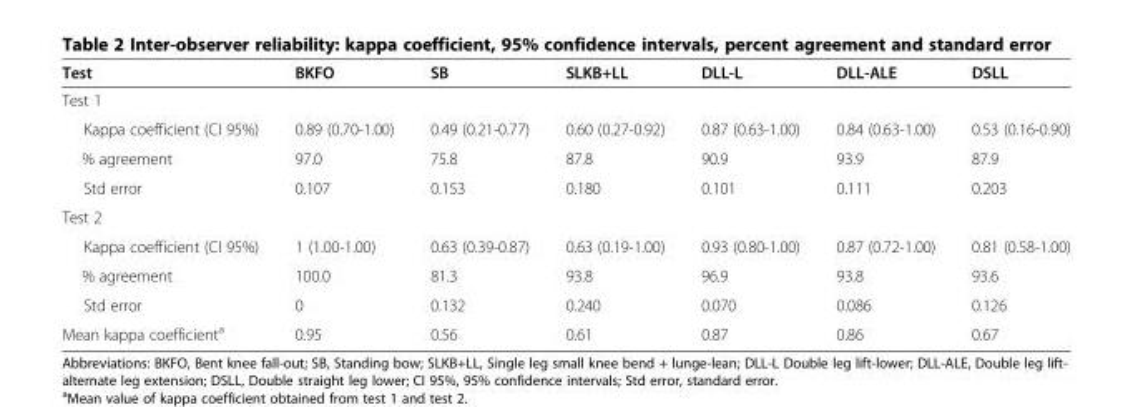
<table><thead><tr><td>Test</td><td>BKFO</td><td>SB</td><td>SLKB+LL</td><td>DLL-L</td><td>DLL-ALE</td><td>DSLL</td></tr></thead><tbody><tr><td colspan="7">Test 1</td></tr><tr><td>Kappa coefficient (CI 95%)</td><td>0.89 (0.70-1.00)</td><td>0.49 (0.21-0.77)</td><td>0.60 (0.27-0.92)</td><td>0.87 (0.63-1.00)</td><td>0.84 (0.63-1.00)</td><td>0.53 (0.16-0.90)</td></tr><tr><td>% agreement</td><td>97.0</td><td>75.8</td><td>87.8</td><td>90.9</td><td>93.9</td><td>87.9</td></tr><tr><td>Std error</td><td>0.107</td><td>0.153</td><td>0.180</td><td>0.101</td><td>0.111</td><td>0.203</td></tr><tr><td colspan="7">Test 2</td></tr><tr><td>Kappa coefficient (CI 95%)</td><td>1 (1.00-1.00)</td><td>0.63 (0.39-0.87)</td><td>0.63 (0.19-1.00)</td><td>0.93 (0.80-1.00)</td><td>0.87 (0.72-1.00)</td><td>0.81 (0.58-1.00)</td></tr><tr><td>% agreement</td><td>100.0</td><td>81.3</td><td>93.8</td><td>96.9</td><td>93.8</td><td>93.6</td></tr><tr><td>Std error</td><td>0</td><td>0.132</td><td>0.240</td><td>0.070</td><td>0.086</td><td>0.126</td></tr><tr><td>Mean kappa coefficient<sup>a</sup></td><td>0.95</td><td>0.56</td><td>0.61</td><td>0.87</td><td>0.86</td><td>0.67</td></tr></tbody></table>